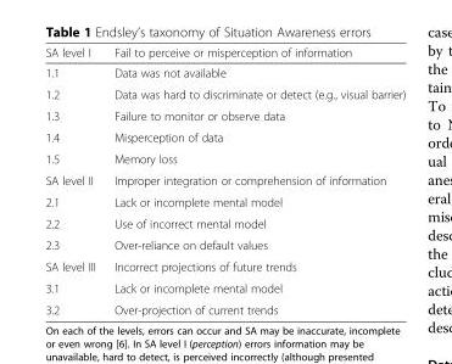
<table><thead><tr><td>SA level I</td><td>Fail to perceive or misperception of information</td></tr></thead><tbody><tr><td>1.1</td><td>Data was not available</td></tr><tr><td>1.2</td><td>Data was hard to discriminate or detect (e.g., visual barrier)</td></tr><tr><td>1.3</td><td>Failure to monitor or observe data</td></tr><tr><td>1.4</td><td>Misperception of data</td></tr><tr><td>1.5</td><td>Memory loss</td></tr><tr><td>SA level II</td><td>Improper integration or comprehension of information</td></tr><tr><td>2.1</td><td>Lack or incomplete mental model</td></tr><tr><td>2.2</td><td>Use of incorrect mental model</td></tr><tr><td>2.3</td><td>Over-reliance on default values</td></tr><tr><td>SA level III</td><td>Incorrect projections of future trends</td></tr><tr><td>3.1</td><td>Lack or incomplete mental model</td></tr><tr><td>3.2</td><td>Over-projection of current trends</td></tr></tbody></table>